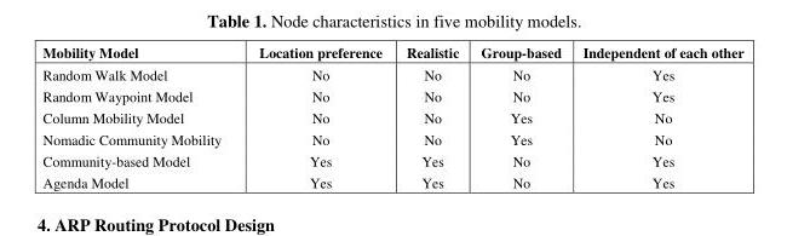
<table><thead><tr><td>Mobility Model</td><td>Location preference</td><td>Realistic</td><td>Group-based</td><td>Independent of each other</td></tr></thead><tbody><tr><td>Random Walk Model</td><td>No</td><td>No</td><td>No</td><td>Yes</td></tr><tr><td>Random Waypoint Model</td><td>No</td><td>No</td><td>No</td><td>Yes</td></tr><tr><td>Column Mobility Model</td><td>No</td><td>No</td><td>Yes</td><td>No</td></tr><tr><td>Nomadic Community Mobility</td><td>No</td><td>No</td><td>Yes</td><td>No</td></tr><tr><td>Community-based Model</td><td>Yes</td><td>Yes</td><td>No</td><td>Yes</td></tr><tr><td>Agenda Model</td><td>Yes</td><td>Yes</td><td>No</td><td>Yes</td></tr></tbody></table>